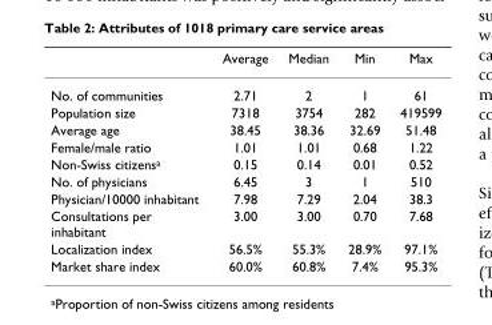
<table><thead><tr><td></td><td>Average</td><td>Median</td><td>Min</td><td>Max</td></tr></thead><tbody><tr><td>No. of communities</td><td>2.71</td><td>2</td><td>1</td><td>61</td></tr><tr><td>Population size</td><td>7318</td><td>3754</td><td>282</td><td>419599</td></tr><tr><td>Average age</td><td>38.45</td><td>38.36</td><td>32.69</td><td>51.48</td></tr><tr><td>Female/male ratio</td><td>1.01</td><td>1.01</td><td>0.68</td><td>1.22</td></tr><tr><td>Non-Swiss citizens<sup>a</sup></td><td>0.15</td><td>0.14</td><td>0.01</td><td>0.52</td></tr><tr><td>No. of physicians</td><td>6.45</td><td>3</td><td>1</td><td>510</td></tr><tr><td>Physician/10000 inhabitant</td><td>7.98</td><td>7.29</td><td>2.04</td><td>38.3</td></tr><tr><td>Consultations per inhabitant</td><td>3.00</td><td>3.00</td><td>0.70</td><td>7.68</td></tr><tr><td>Localization index</td><td>56.5%</td><td>55.3%</td><td>28.9%</td><td>97.1%</td></tr><tr><td>Market share index</td><td>60.0%</td><td>60.8%</td><td>7.4%</td><td>95.3%</td></tr></tbody></table>